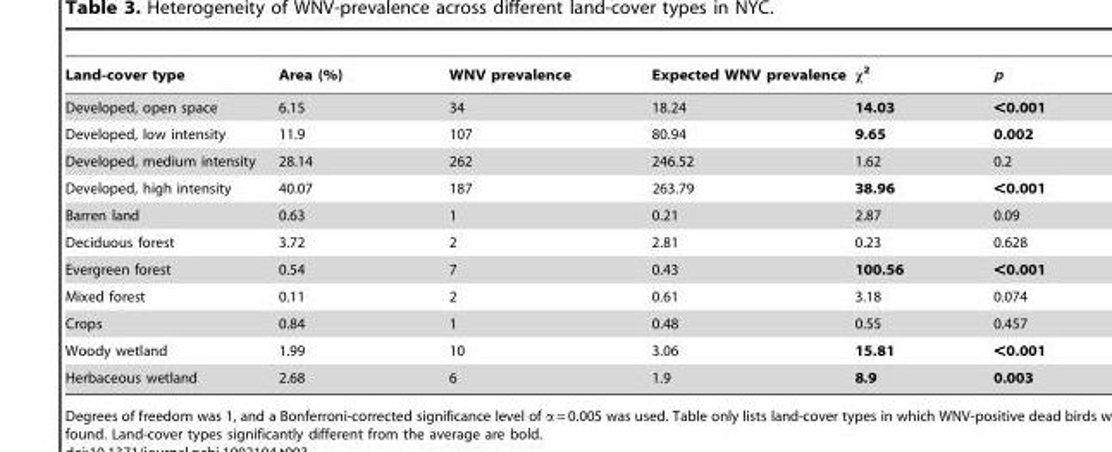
<table><thead><tr><td>Land-cover type</td><td>Area (%)</td><td>WNV prevalence</td><td>Expected WNV prevalence</td><td>κ<sup>2</sup></td><td>p</td></tr></thead><tbody><tr><td>Developed, open space</td><td>6.15</td><td>34</td><td>18.24</td><td>14.03</td><td>&lt;0.001</td></tr><tr><td>Developed, low intensity</td><td>11.9</td><td>107</td><td>80.94</td><td>9.65</td><td>0.002</td></tr><tr><td>Developed, medium intensity</td><td>28.14</td><td>262</td><td>246.52</td><td>1.62</td><td>0.2</td></tr><tr><td>Developed, high intensity</td><td>40.07</td><td>187</td><td>263.79</td><td>38.96</td><td>&lt;0.001</td></tr><tr><td>Barren land</td><td>0.63</td><td>1</td><td>0.21</td><td>2.87</td><td>0.09</td></tr><tr><td>Deciduous forest</td><td>3.72</td><td>2</td><td>2.81</td><td>0.23</td><td>0.628</td></tr><tr><td>Evergreen forest</td><td>0.54</td><td>7</td><td>0.43</td><td>100.56</td><td>&lt;0.001</td></tr><tr><td>Mixed forest</td><td>0.11</td><td>2</td><td>0.61</td><td>3.18</td><td>0.074</td></tr><tr><td>Crops</td><td>0.84</td><td>1</td><td>0.48</td><td>0.55</td><td>0.457</td></tr><tr><td>Woody wetland</td><td>1.99</td><td>10</td><td>3.06</td><td>15.81</td><td>&lt;0.001</td></tr><tr><td>Herbaceous wetland</td><td>2.68</td><td>6</td><td>1.9</td><td>8.9</td><td>0.003</td></tr></tbody></table>